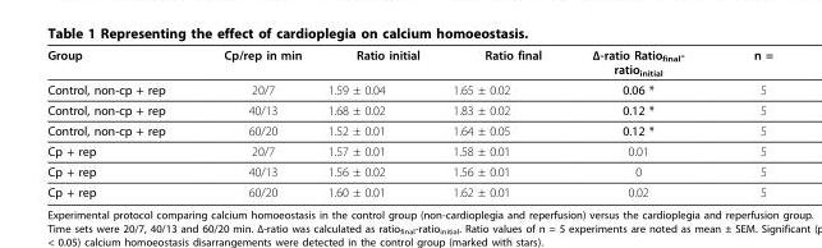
<table><thead><tr><td>Group</td><td>Cp/rep in min</td><td>Ratio initial</td><td>Ratio final</td><td>Δ-ratio Ratio<sub>final</sub>- ratio<sub>initial</sub></td><td>n =</td></tr></thead><tbody><tr><td>Control, non-cp + rep</td><td>20/7</td><td>1.59 ± 0.04</td><td>1.65 ± 0.02</td><td>0.06 *</td><td>5</td></tr><tr><td>Control, non-cp + rep</td><td>40/13</td><td>1.68 ± 0.02</td><td>1.83 ± 0.02</td><td>0.12 *</td><td>5</td></tr><tr><td>Control, non-cp + rep</td><td>60/20</td><td>1.52 ± 0.01</td><td>1.64 ± 0.05</td><td>0.12 *</td><td>5</td></tr><tr><td>Cp + rep</td><td>20/7</td><td>1.57 ± 0.01</td><td>1.58 ± 0.01</td><td>0.01</td><td>5</td></tr><tr><td>Cp + rep</td><td>40/13</td><td>1.56 ± 0.02</td><td>1.56 ± 0.01</td><td>0</td><td>5</td></tr><tr><td>Cp + rep</td><td>60/20</td><td>1.60 ± 0.01</td><td>1.62 ± 0.01</td><td>0.02</td><td>5</td></tr></tbody></table>